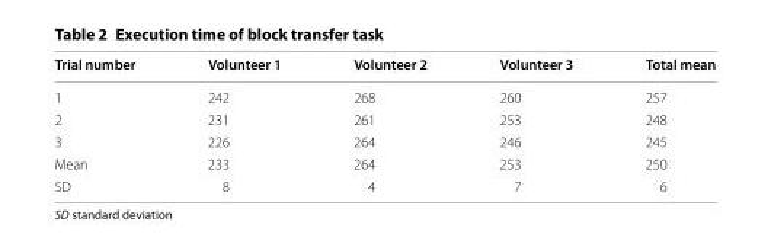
<table><thead><tr><td>Trial number</td><td>Volunteer 1</td><td>Volunteer 2</td><td>Volunteer 3</td><td>Total mean</td></tr></thead><tbody><tr><td>1</td><td>242</td><td>268</td><td>260</td><td>257</td></tr><tr><td>2</td><td>231</td><td>261</td><td>253</td><td>248</td></tr><tr><td>3</td><td>226</td><td>264</td><td>246</td><td>245</td></tr><tr><td>Mean</td><td>233</td><td>264</td><td>253</td><td>250</td></tr><tr><td>SD</td><td>8</td><td>4</td><td>7</td><td>6</td></tr></tbody></table>